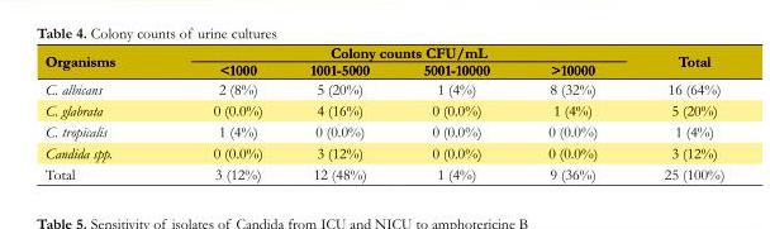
<table><tbody><tr><td rowspan="2">Organisms</td><td colspan="4">Colony counts CFU/mL</td><td rowspan="2">Total</td></tr><tr><td>&lt;1000</td><td>1001-5000</td><td>5001-10000</td><td>&gt;10000</td></tr><tr><td>C. albicans</td><td>2 (8%)</td><td>5 (20%)</td><td>1 (4%)</td><td>8 (32%)</td><td>16 (64%)</td></tr><tr><td>C. glabrata</td><td>0 (0.0%)</td><td>4 (16%)</td><td>0 (0.0%)</td><td>1 (4%)</td><td>5 (20%)</td></tr><tr><td>C. tropicalis</td><td>1 (4%)</td><td>0 (0.0%)</td><td>0 (0.0%)</td><td>0 (0.0%)</td><td>1 (4%)</td></tr><tr><td>Candida spp.</td><td>0 (0.0%)</td><td>3 (12%)</td><td>0 (0.0%)</td><td>0 (0.0%)</td><td>3 (12%)</td></tr><tr><td>Total</td><td>3 (12%)</td><td>12 (48%)</td><td>1 (4%)</td><td>9 (36%)</td><td>25 (100%)</td></tr></tbody></table>